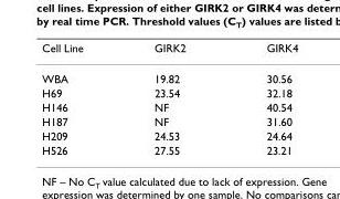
<table><thead><tr><td>Cell Line</td><td>GIRK2</td><td>GIRK4</td></tr></thead><tbody><tr><td>WBA</td><td>19.82</td><td>30.56</td></tr><tr><td>H69</td><td>23.54</td><td>32.18</td></tr><tr><td>H146</td><td>NF</td><td>40.54</td></tr><tr><td>H187</td><td>NF</td><td>31.60</td></tr><tr><td>H209</td><td>24.53</td><td>24.64</td></tr><tr><td>H526</td><td>27.55</td><td>23.21</td></tr></tbody></table>